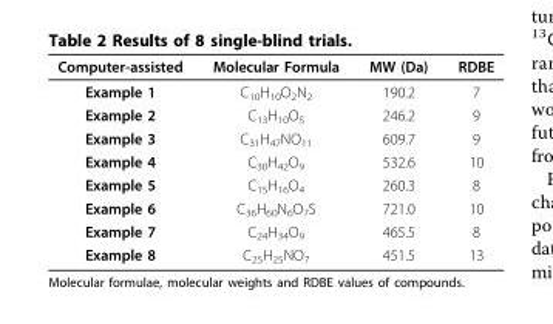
<table><thead><tr><td>Computer-assisted</td><td>Molecular Formula</td><td>MW (Da)</td><td>RDBE</td></tr></thead><tbody><tr><td>Example 1</td><td>C<sub>10</sub>H<sub>10</sub>O<sub>2</sub>N<sub>2</sub></td><td>190.2</td><td>7</td></tr><tr><td>Example 2</td><td>C<sub>13</sub>H<sub>10</sub>O<sub>5</sub></td><td>246.2</td><td>9</td></tr><tr><td>Example 3</td><td>C<sub>31</sub>H<sub>47</sub>NO<sub>11</sub></td><td>609.7</td><td>9</td></tr><tr><td>Example 4</td><td>C<sub>30</sub>H<sub>42</sub>O<sub>9</sub></td><td>532.6</td><td>10</td></tr><tr><td>Example 5</td><td>C<sub>15</sub>H<sub>16</sub>O<sub>4</sub></td><td>260.3</td><td>8</td></tr><tr><td>Example 6</td><td>C<sub>36</sub>H<sub>60</sub>N<sub>6</sub>O<sub>7</sub>S</td><td>721.0</td><td>10</td></tr><tr><td>Example 7</td><td>C<sub>24</sub>H<sub>34</sub>O<sub>9</sub></td><td>465.5</td><td>8</td></tr><tr><td>Example 8</td><td>C<sub>25</sub>H<sub>25</sub>NO<sub>7</sub></td><td>451.5</td><td>13</td></tr></tbody></table>